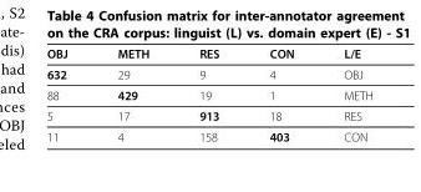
<table><thead><tr><td>OBJ</td><td>METH</td><td>RES</td><td>CON</td><td>L/E</td></tr></thead><tbody><tr><td>632</td><td>29</td><td>9</td><td>4</td><td>OBJ</td></tr><tr><td>88</td><td>429</td><td>19</td><td>1</td><td>METH</td></tr><tr><td>5</td><td>17</td><td>913</td><td>18</td><td>RES</td></tr><tr><td>11</td><td>4</td><td>158</td><td>403</td><td>CON</td></tr></tbody></table>